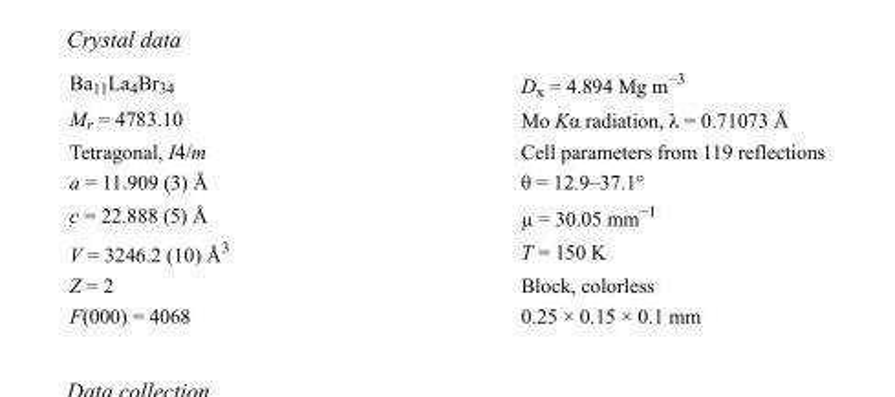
<table><tbody><tr><td>Ba<sub>11</sub>La<sub>4</sub>Br<sub>34</sub></td><td>D<sub>x</sub> = 4.894 Mg m<sup>−3</sup></td></tr><tr><td>M<sub>r</sub> = 4783.10</td><td>Mo Kα radiation, λ = 0.71073 Å</td></tr><tr><td>Tetragonal, I4/m</td><td>Cell parameters from 119 reflections</td></tr><tr><td>a = 11.909 (3) Å</td><td>θ = 12.9–37.1°</td></tr><tr><td>c = 22.888 (5) Å</td><td>µ = 30.05 mm<sup>−1</sup></td></tr><tr><td>V = 3246.2 (10) Å<sup>3</sup></td><td>T = 150 K</td></tr><tr><td>Z = 2</td><td>Block, colorless</td></tr><tr><td>F(000) = 4068</td><td>0.25 × 0.15 × 0.1 mm</td></tr></tbody></table>